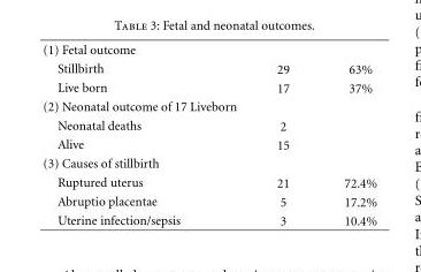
<table><tbody><tr><td colspan="3">(1) Fetal outcome</td></tr><tr><td>Stillbirth</td><td>29</td><td>63%</td></tr><tr><td>Live born</td><td>17</td><td>37%</td></tr><tr><td colspan="3">(2) Neonatal outcome of 17 Liveborn</td></tr><tr><td>Neonatal deaths</td><td>2</td><td></td></tr><tr><td>Alive</td><td>15</td><td></td></tr><tr><td colspan="3">(3) Causes of stillbirth</td></tr><tr><td>Ruptured uterus</td><td>21</td><td>72.4%</td></tr><tr><td>Abruptio placentae</td><td>5</td><td>17.2%</td></tr><tr><td>Uterine infection/sepsis</td><td>3</td><td>10.4%</td></tr></tbody></table>